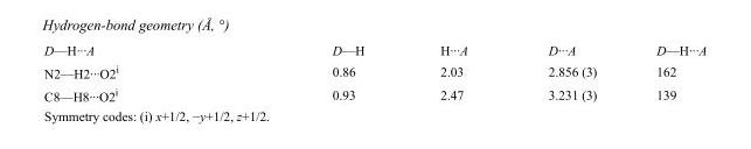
<table><tbody><tr><td>D—H···A</td><td>D—H</td><td>H···A</td><td>D···A</td><td>D—H···A</td></tr><tr><td>N2—H2···O2<sup>i</sup></td><td>0.86</td><td>2.03</td><td>2.856 (3)</td><td>162</td></tr><tr><td>C8—H8···O2<sup>i</sup></td><td>0.93</td><td>2.47</td><td>3.231 (3)</td><td>139</td></tr></tbody></table>